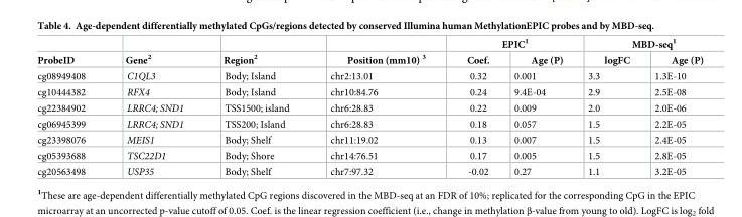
<table><thead><tr><td rowspan="2">ProbeID</td><td rowspan="2">Gene<sup>2</sup></td><td rowspan="2">Region<sup>2</sup></td><td rowspan="2">Position (mm10) <sup>3</sup></td><td colspan="2">EPIC<sup>1</sup></td><td colspan="2">MBD-seq<sup>1</sup></td></tr><tr><td>Coef.</td><td>Age (P)</td><td>logFC</td><td>Age (P)</td></tr></thead><tbody><tr><td>cg08949408</td><td>C1QL3</td><td>Body; Island</td><td>chr2:13.01</td><td>0.32</td><td>0.001</td><td>3.3</td><td>1.3E-10</td></tr><tr><td>cg10444382</td><td>RFX4</td><td>Body; Island</td><td>chr10:84.76</td><td>0.24</td><td>9.4E-04</td><td>2.9</td><td>2.5E-08</td></tr><tr><td>cg22384902</td><td>LRRC4; SND1</td><td>TSS1500; island</td><td>chr6:28.83</td><td>0.22</td><td>0.009</td><td>2.0</td><td>2.0E-06</td></tr><tr><td>cg06945399</td><td>LRRC4; SND1</td><td>TSS200; Island</td><td>chr6:28.83</td><td>0.18</td><td>0.057</td><td>1.5</td><td>2.2E-05</td></tr><tr><td>cg23398076</td><td>MEIS1</td><td>Body; Shelf</td><td>chr11:19.02</td><td>0.13</td><td>0.007</td><td>1.5</td><td>2.4E-05</td></tr><tr><td>cg05393688</td><td>TSC22D1</td><td>Body; Shore</td><td>chr14:76.51</td><td>0.17</td><td>0.005</td><td>1.5</td><td>2.8E-05</td></tr><tr><td>cg20563498</td><td>USP35</td><td>Body; Shelf</td><td>chr7:97.32</td><td>-0.02</td><td>0.27</td><td>1.1</td><td>3.2E-05</td></tr></tbody></table>